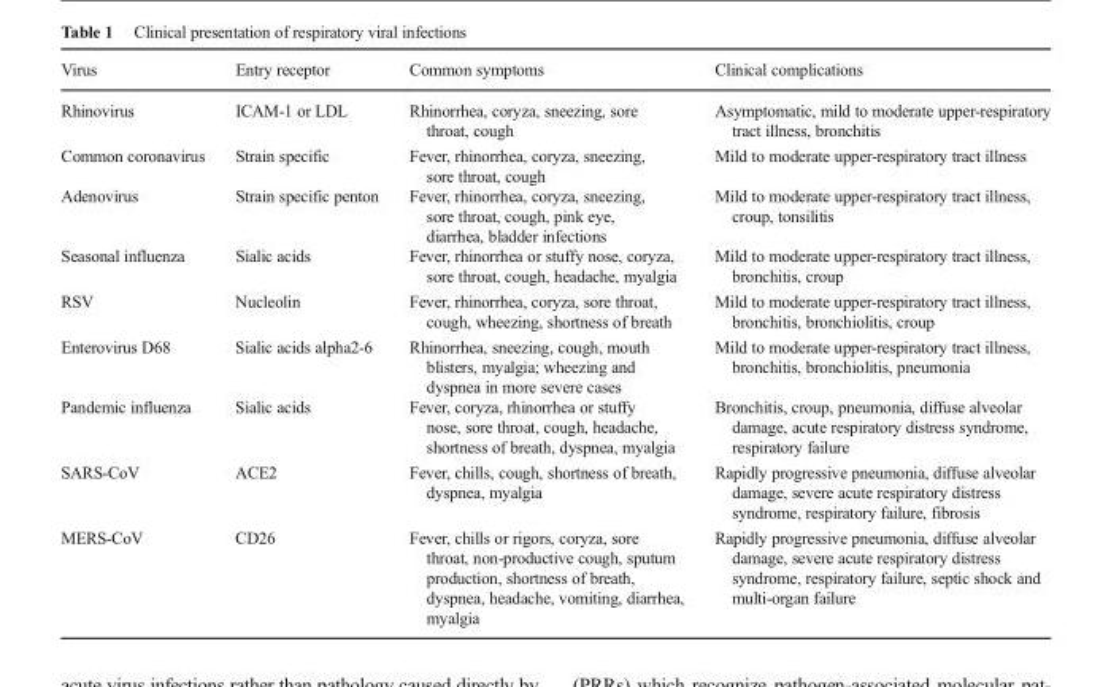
<table><thead><tr><td>Virus</td><td>Entry receptor</td><td>Common symptoms</td><td>Clinical complications</td></tr></thead><tbody><tr><td>Rhinovirus</td><td>ICAM-1 or LDL</td><td>Rhinorrhea, coryza, sneezing, sore throat, cough</td><td>Asymptomatic, mild to moderate upper-respiratory tract illness, bronchitis</td></tr><tr><td>Common coronavirus</td><td>Strain specific</td><td>Fever, rhinorrhea, coryza, sneezing, sore throat, cough</td><td>Mild to moderate upper-respiratory tract illness</td></tr><tr><td>Adenovirus</td><td>Strain specific penton</td><td>Fever, rhinorrhea, coryza, sneezing, sore throat, cough, pink eye, diarrhea, bladder infections</td><td>Mild to moderate upper-respiratory tract illness, croup, tonsilitis</td></tr><tr><td>Seasonal influenza</td><td>Sialic acids</td><td>Fever, rhinorrhea or stuffy nose, coryza, sore throat, cough, headache, myalgia</td><td>Mild to moderate upper-respiratory tract illness, bronchitis, croup</td></tr><tr><td>RSV</td><td>Nucleolin</td><td>Fever, rhinorrhea, coryza, sore throat, cough, wheezing, shortness of breath</td><td>Mild to moderate upper-respiratory tract illness, bronchitis, bronchiolitis, croup</td></tr><tr><td>Enterovirus D68</td><td>Sialic acids alpha2-6</td><td>Rhinorrhea, sneezing, cough, mouth blisters, myalgia; wheezing and dyspnea in more severe cases</td><td>Mild to moderate upper-respiratory tract illness, bronchitis, bronchiolitis, pneumonia</td></tr><tr><td>Pandemic influenza</td><td>Sialic acids</td><td>Fever, coryza, rhinorrhea or stuffy nose, sore throat, cough, headache, shortness of breath, dyspnea, myalgia</td><td>Bronchitis, croup, pneumonia, diffuse alveolar damage, acute respiratory distress syndrome, respiratory failure</td></tr><tr><td>SARS-CoV</td><td>ACE2</td><td>Fever, chills, cough, shortness of breath, dyspnea, myalgia</td><td>Rapidly progressive pneumonia, diffuse alveolar damage, severe acute respiratory distress syndrome, respiratory failure, fibrosis</td></tr><tr><td>MERS-CoV</td><td>CD26</td><td>Fever, chills or rigors, coryza, sore throat, non-productive cough, sputum production, shortness of breath, dyspnea, headache, vomiting, diarrhea, myalgia</td><td>Rapidly progressive pneumonia, diffuse alveolar damage, severe acute respiratory distress syndrome, respiratory failure, septic shock and multi-organ failure</td></tr></tbody></table>